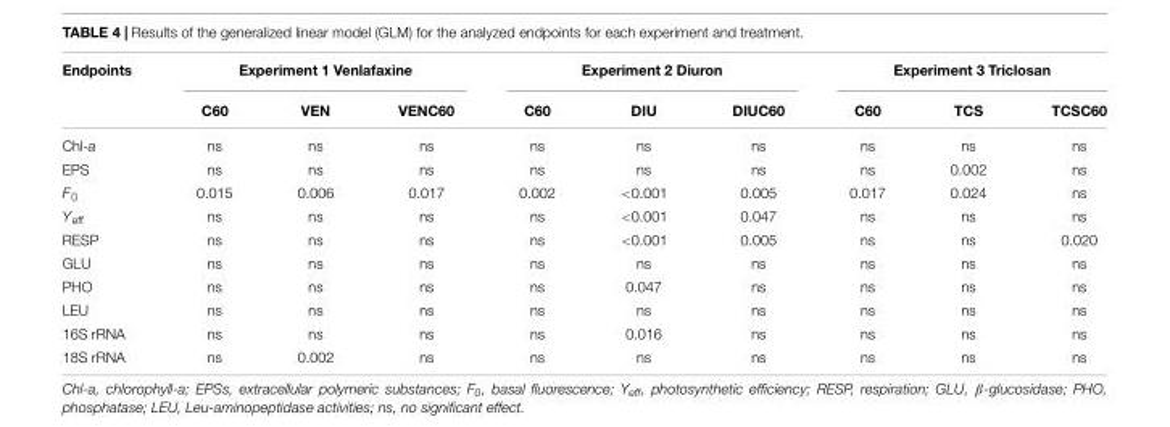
<table><thead><tr><td rowspan="2">Endpoints</td><td colspan="3">Experiment 1 Venlafaxine</td><td colspan="3">Experiment 2 Diuron</td><td colspan="3">Experiment 3 Triclosan</td></tr><tr><td>C60</td><td>VEN</td><td>VENC60</td><td>C60</td><td>DIU</td><td>DIUC60</td><td>C60</td><td>TCS</td><td>TCSC60</td></tr></thead><tbody><tr><td>Chl-a</td><td>ns</td><td>ns</td><td>ns</td><td>ns</td><td>ns</td><td>ns</td><td>ns</td><td>ns</td><td>ns</td></tr><tr><td>EPS</td><td>ns</td><td>ns</td><td>ns</td><td>ns</td><td>ns</td><td>ns</td><td>ns</td><td>0.002</td><td>ns</td></tr><tr><td>F<sub>0</sub></td><td>0.015</td><td>0.006</td><td>0.017</td><td>0.002</td><td>&lt;0.001</td><td>0.005</td><td>0.017</td><td>0.024</td><td>ns</td></tr><tr><td>Y<sub>eff</sub></td><td>ns</td><td>ns</td><td>ns</td><td>ns</td><td>&lt;0.001</td><td>0.047</td><td>ns</td><td>ns</td><td>ns</td></tr><tr><td>RESP</td><td>ns</td><td>ns</td><td>ns</td><td>ns</td><td>&lt;0.001</td><td>0.005</td><td>ns</td><td>ns</td><td>0.020</td></tr><tr><td>GLU</td><td>ns</td><td>ns</td><td>ns</td><td>ns</td><td>ns</td><td>ns</td><td>ns</td><td>ns</td><td>ns</td></tr><tr><td>PHO</td><td>ns</td><td>ns</td><td>ns</td><td>ns</td><td>0.047</td><td>ns</td><td>ns</td><td>ns</td><td>ns</td></tr><tr><td>LEU</td><td>ns</td><td>ns</td><td>ns</td><td>ns</td><td>ns</td><td>ns</td><td>ns</td><td>ns</td><td>ns</td></tr><tr><td>16S rRNA</td><td>ns</td><td>ns</td><td>ns</td><td>ns</td><td>0.016</td><td>ns</td><td>ns</td><td>ns</td><td>ns</td></tr><tr><td>18S rRNA</td><td>ns</td><td>0.002</td><td>ns</td><td>ns</td><td>ns</td><td>ns</td><td>ns</td><td>ns</td><td>ns</td></tr></tbody></table>